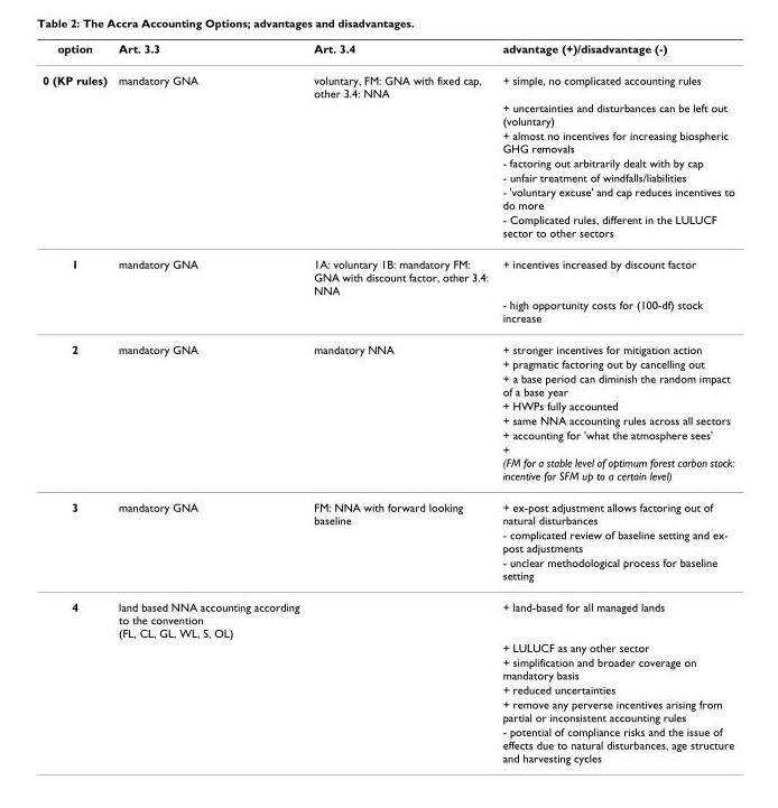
<table><thead><tr><td>option</td><td>Art. 3.3</td><td>Art. 3.4</td><td>advantage (+)/disadvantage (-)</td></tr></thead><tbody><tr><td rowspan="7">0 (KP rules)</td><td>mandatory GNA</td><td>voluntary, FM: GNA with fixed cap, other 3.4: NNA</td><td>+ simple, no complicated accounting rules</td></tr><tr><td></td><td></td><td>+ uncertainties and disturbances can be left out (voluntary)</td></tr><tr><td></td><td></td><td>+ almost no incentives for increasing biospheric GHG removals</td></tr><tr><td></td><td></td><td>- factoring out arbitrarily dealt with by cap</td></tr><tr><td></td><td></td><td>- unfair treatment of windfalls/liabilities</td></tr><tr><td></td><td></td><td>- &#x27;voluntary excuse&#x27; and cap reduces incentives to do more</td></tr><tr><td></td><td></td><td>- Complicated rules, different in the LULUCF sector to other sectors</td></tr><tr><td rowspan="2">1</td><td>mandatory GNA</td><td>1A: voluntary 1B: mandatory FM: GNA with discount factor, other 3.4: NNA</td><td>+ incentives increased by discount factor</td></tr><tr><td></td><td></td><td>- high opportunity costs for (100-df) stock increase</td></tr><tr><td rowspan="7">2</td><td>mandatory GNA</td><td>mandatory NNA</td><td>+ stronger incentives for mitigation action</td></tr><tr><td></td><td></td><td>+ pragmatic factoring out by cancelling out</td></tr><tr><td></td><td></td><td>+ a base period can diminish the random impact of a base year</td></tr><tr><td></td><td></td><td>+ HWPs fully accounted</td></tr><tr><td></td><td></td><td>+ same NNA accounting rules across all sectors</td></tr><tr><td></td><td></td><td>+ accounting for &#x27;what the atmosphere sees&#x27;</td></tr><tr><td></td><td></td><td>+ (FM for a stable level of optimum forest carbon stock: incentive for SFM up to a certain level)</td></tr><tr><td rowspan="3">3</td><td>mandatory GNA</td><td>FM: NNA with forward looking baseline</td><td>+ ex-post adjustment allows factoring out of natural disturbances</td></tr><tr><td></td><td></td><td>- complicated review of baseline setting and ex- post adjustments</td></tr><tr><td></td><td></td><td>- unclear methodological process for baseline setting</td></tr><tr><td rowspan="6">4</td><td>land based NNA accounting according to the convention (FL, CL, GL, WL, S, OL)</td><td></td><td>+ land-based for all managed lands</td></tr><tr><td></td><td></td><td>+ LULUCF as any other sector</td></tr><tr><td></td><td></td><td>+ simplification and broader coverage on mandatory basis</td></tr><tr><td></td><td></td><td>+ reduced uncertainties</td></tr><tr><td></td><td></td><td>+ remove any perverse incentives arising from partial or inconsistent accounting rules</td></tr><tr><td></td><td></td><td>- potential of compliance risks and the issue of effects due to natural disturbances, age structure and harvesting cycles</td></tr></tbody></table>